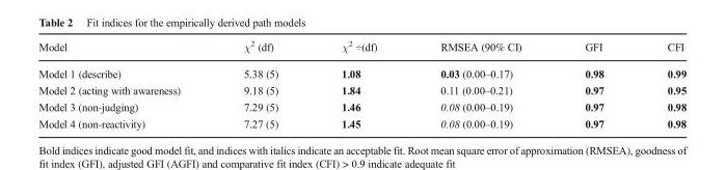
<table><thead><tr><td>Model</td><td>χ<sup>2</sup> (df)</td><td>χ<sup>2</sup> ÷(df)</td><td>RMSEA (90% CI)</td><td>GFI</td><td>CFI</td></tr></thead><tbody><tr><td>Model 1 (describe)</td><td>5.38 (5)</td><td>1.08</td><td>0.03 (0.00–0.17)</td><td>0.98</td><td>0.99</td></tr><tr><td>Model 2 (acting with awareness)</td><td>9.18 (5)</td><td>1.84</td><td>0.11 (0.00–0.21)</td><td>0.97</td><td>0.95</td></tr><tr><td>Model 3 (non-judging)</td><td>7.29 (5)</td><td>1.46</td><td>0.08 (0.00–0.19)</td><td>0.97</td><td>0.98</td></tr><tr><td>Model 4 (non-reactivity)</td><td>7.27 (5)</td><td>1.45</td><td>0.08 (0.00–0.19)</td><td>0.97</td><td>0.98</td></tr></tbody></table>